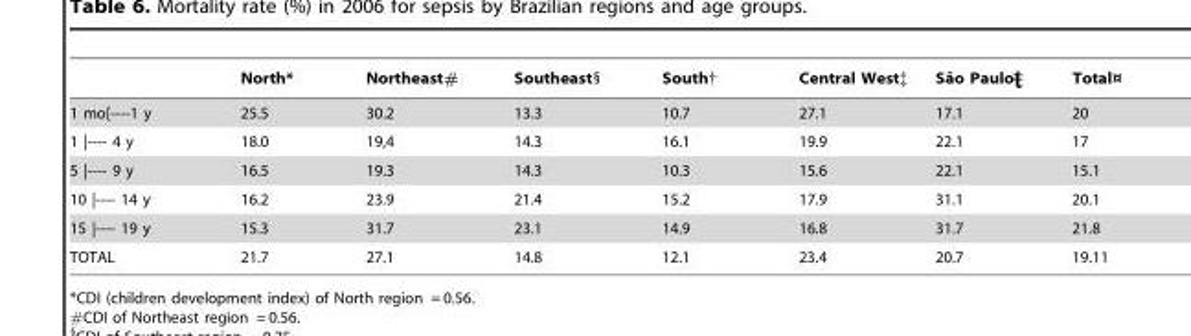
<table><thead><tr><td></td><td>North*</td><td>Northeast#</td><td>Southeast§</td><td>South†</td><td>Central West‡</td><td>Sa˜o Paulo</td><td>Total¤</td></tr></thead><tbody><tr><td>1 mo[----1 y</td><td>25.5</td><td>30.2</td><td>13.3</td><td>10.7</td><td>27.1</td><td>17.1</td><td>20</td></tr><tr><td>1 |---- 4 y</td><td>18.0</td><td>19,4</td><td>14.3</td><td>16.1</td><td>19.9</td><td>22.1</td><td>17</td></tr><tr><td>5 |---- 9 y</td><td>16.5</td><td>19.3</td><td>14.3</td><td>10.3</td><td>15.6</td><td>22.1</td><td>15.1</td></tr><tr><td>10 |---- 14 y</td><td>16.2</td><td>23.9</td><td>21.4</td><td>15.2</td><td>17.9</td><td>31.1</td><td>20.1</td></tr><tr><td>15 |---- 19 y</td><td>15.3</td><td>31.7</td><td>23.1</td><td>14.9</td><td>16.8</td><td>31.7</td><td>21.8</td></tr><tr><td>TOTAL</td><td>21.7</td><td>27.1</td><td>14.8</td><td>12.1</td><td>23.4</td><td>20.7</td><td>19.11</td></tr></tbody></table>